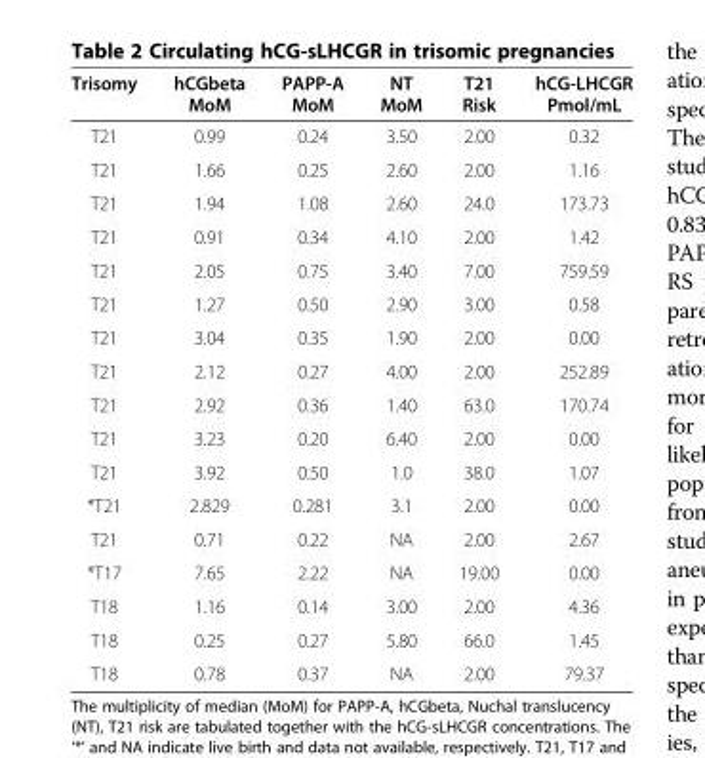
<table><thead><tr><td>Trisomy</td><td>hCGbeta MoM</td><td>PAPP-A MoM</td><td>NT MoM</td><td>T21 Risk</td><td>hCG-LHCGR Pmol/mL</td></tr></thead><tbody><tr><td>T21</td><td>0.99</td><td>0.24</td><td>3.50</td><td>2.00</td><td>0.32</td></tr><tr><td>T21</td><td>1.66</td><td>0.25</td><td>2.60</td><td>2.00</td><td>1.16</td></tr><tr><td>T21</td><td>1.94</td><td>1.08</td><td>2.60</td><td>24.0</td><td>173.73</td></tr><tr><td>T21</td><td>0.91</td><td>0.34</td><td>4.10</td><td>2.00</td><td>1.42</td></tr><tr><td>T21</td><td>2.05</td><td>0.75</td><td>3.40</td><td>7.00</td><td>759.59</td></tr><tr><td>T21</td><td>1.27</td><td>0.50</td><td>2.90</td><td>3.00</td><td>0.58</td></tr><tr><td>T21</td><td>3.04</td><td>0.35</td><td>1.90</td><td>2.00</td><td>0.00</td></tr><tr><td>T21</td><td>2.12</td><td>0.27</td><td>4.00</td><td>2.00</td><td>252.89</td></tr><tr><td>T21</td><td>2.92</td><td>0.36</td><td>1.40</td><td>63.0</td><td>170.74</td></tr><tr><td>T21</td><td>3.23</td><td>0.20</td><td>6.40</td><td>2.00</td><td>0.00</td></tr><tr><td>T21</td><td>3.92</td><td>0.50</td><td>1.0</td><td>38.0</td><td>1.07</td></tr><tr><td>*T21</td><td>2.829</td><td>0.281</td><td>3.1</td><td>2.00</td><td>0.00</td></tr><tr><td>T21</td><td>0.71</td><td>0.22</td><td>NA</td><td>2.00</td><td>2.67</td></tr><tr><td>*T17</td><td>7.65</td><td>2.22</td><td>NA</td><td>19.00</td><td>0.00</td></tr><tr><td>T18</td><td>1.16</td><td>0.14</td><td>3.00</td><td>2.00</td><td>4.36</td></tr><tr><td>T18</td><td>0.25</td><td>0.27</td><td>5.80</td><td>66.0</td><td>1.45</td></tr><tr><td>T18</td><td>0.78</td><td>0.37</td><td>NA</td><td>2.00</td><td>79.37</td></tr></tbody></table>